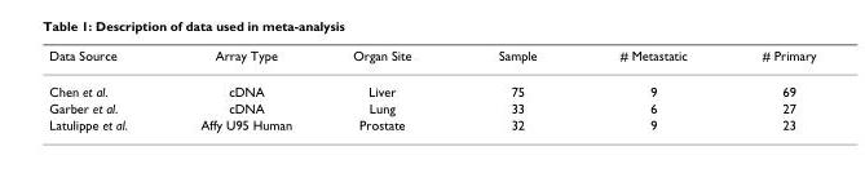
<table><thead><tr><td>Data Source</td><td>Array Type</td><td>Organ Site</td><td>Sample</td><td># Metastatic</td><td># Primary</td></tr></thead><tbody><tr><td>Chen et al.</td><td>cDNA</td><td>Liver</td><td>75</td><td>9</td><td>69</td></tr><tr><td>Garber et al.</td><td>cDNA</td><td>Lung</td><td>33</td><td>6</td><td>27</td></tr><tr><td>Latulippe et al.</td><td>Affy U95 Human</td><td>Prostate</td><td>32</td><td>9</td><td>23</td></tr></tbody></table>